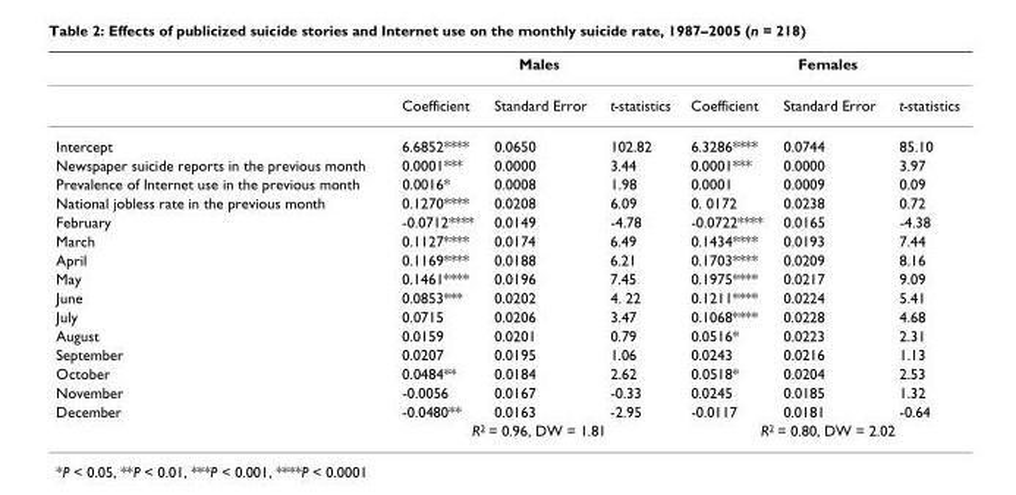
<table><thead><tr><td rowspan="2"></td><td colspan="3">Males</td><td colspan="3">Females</td></tr><tr><td>Coefficient</td><td>Standard Error</td><td>t-statistics</td><td>Coefficient</td><td>Standard Error</td><td>t-statistics</td></tr></thead><tbody><tr><td>Intercept</td><td>6.6852****</td><td>0.0650</td><td>102.82</td><td>6.3286****</td><td>0.0744</td><td>85.10</td></tr><tr><td>Newspaper suicide reports in the previous month</td><td>0.0001***</td><td>0.0000</td><td>3.44</td><td>0.0001***</td><td>0.0000</td><td>3.97</td></tr><tr><td>Prevalence of Internet use in the previous month</td><td>0.0016*</td><td>0.0008</td><td>1.98</td><td>0.0001</td><td>0.0009</td><td>0.09</td></tr><tr><td>National jobless rate in the previous month</td><td>0.1270****</td><td>0.0208</td><td>6.09</td><td>0. 0172</td><td>0.0238</td><td>0.72</td></tr><tr><td>February</td><td>-0.0712****</td><td>0.0149</td><td>-4.78</td><td>-0.0722****</td><td>0.0165</td><td>-4.38</td></tr><tr><td>March</td><td>0.1127****</td><td>0.0174</td><td>6.49</td><td>0.1434****</td><td>0.0193</td><td>7.44</td></tr><tr><td>April</td><td>0.1169****</td><td>0.0188</td><td>6.21</td><td>0.1703****</td><td>0.0209</td><td>8.16</td></tr><tr><td>May</td><td>0.1461****</td><td>0.0196</td><td>7.45</td><td>0.1975****</td><td>0.0217</td><td>9.09</td></tr><tr><td>June</td><td>0.0853***</td><td>0.0202</td><td>4. 22</td><td>0.1211****</td><td>0.0224</td><td>5.41</td></tr><tr><td>July</td><td>0.0715</td><td>0.0206</td><td>3.47</td><td>0.1068****</td><td>0.0228</td><td>4.68</td></tr><tr><td>August</td><td>0.0159</td><td>0.0201</td><td>0.79</td><td>0.0516*</td><td>0.0223</td><td>2.31</td></tr><tr><td>September</td><td>0.0207</td><td>0.0195</td><td>1.06</td><td>0.0243</td><td>0.0216</td><td>1.13</td></tr><tr><td>October</td><td>0.0484**</td><td>0.0184</td><td>2.62</td><td>0.0518*</td><td>0.0204</td><td>2.53</td></tr><tr><td>November</td><td>-0.0056</td><td>0.0167</td><td>-0.33</td><td>0.0245</td><td>0.0185</td><td>1.32</td></tr><tr><td rowspan="2">December</td><td>-0.0480**</td><td>0.0163</td><td>-2.95</td><td>-0.0117</td><td>0.0181</td><td>-0.64</td></tr><tr><td colspan="3">R<sup>2</sup> = 0.96, DW = 1.81</td><td colspan="3">R<sup>2</sup> = 0.80, DW = 2.02</td></tr></tbody></table>